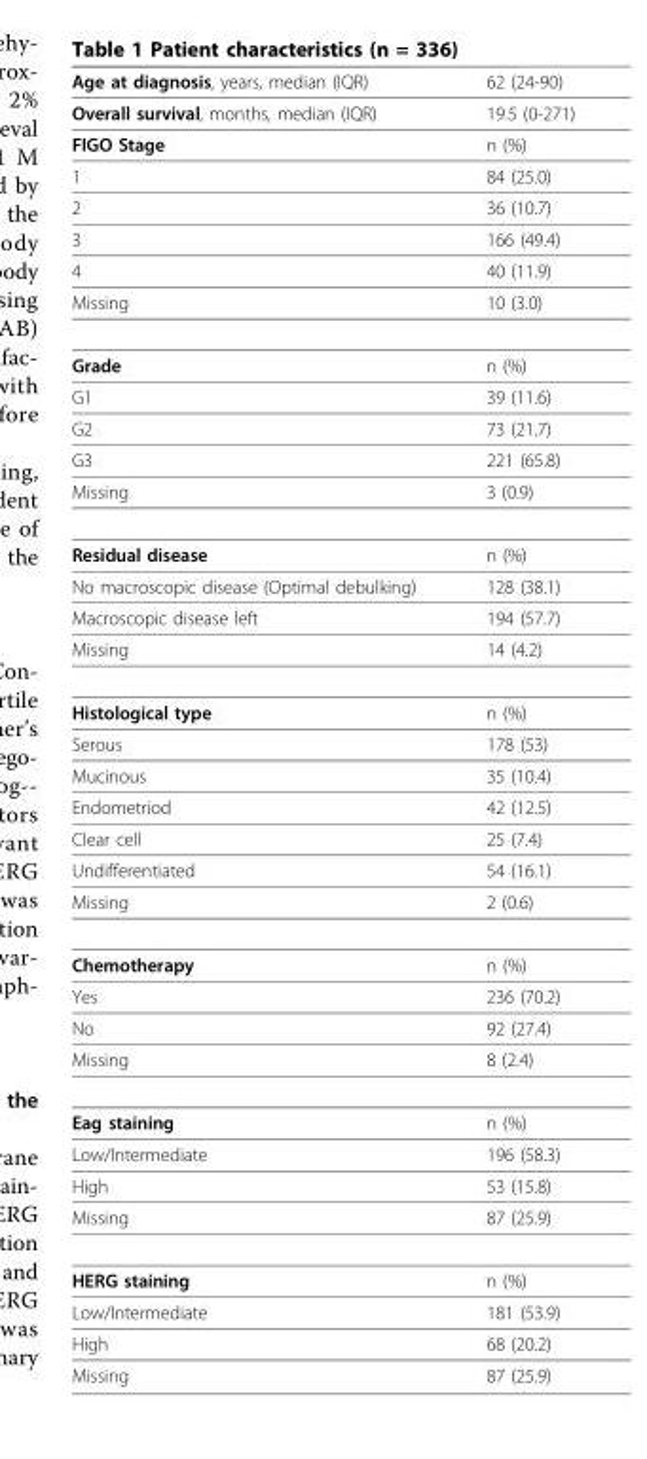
<table><thead><tr><td>Age at diagnosis, years, median (IQR)</td><td>62 (24-90)</td></tr></thead><tbody><tr><td>Overall survival, months, median (IQR)</td><td>19.5 (0-271)</td></tr><tr><td>FIGO Stage</td><td>n (%)</td></tr><tr><td>1</td><td>84 (25.0)</td></tr><tr><td>2</td><td>36 (10.7)</td></tr><tr><td>3</td><td>166 (49.4)</td></tr><tr><td>4</td><td>40 (11.9)</td></tr><tr><td>Missing</td><td>10 (3.0)</td></tr><tr><td>Grade</td><td>n (%)</td></tr><tr><td>G1</td><td>39 (11.6)</td></tr><tr><td>G2</td><td>73 (21.7)</td></tr><tr><td>G3</td><td>221 (65.8)</td></tr><tr><td>Missing</td><td>3 (0.9)</td></tr><tr><td>Residual disease</td><td>n (%)</td></tr><tr><td>No macroscopic disease (Optimal debulking)</td><td>128 (38.1)</td></tr><tr><td>Macroscopic disease left</td><td>194 (57.7)</td></tr><tr><td>Missing</td><td>14 (4.2)</td></tr><tr><td>Histological type</td><td>n (%)</td></tr><tr><td>Serous</td><td>178 (53)</td></tr><tr><td>Mucinous</td><td>35 (10.4)</td></tr><tr><td>Endometriod</td><td>42 (12.5)</td></tr><tr><td>Clear cell</td><td>25 (7.4)</td></tr><tr><td>Undifferentiated</td><td>54 (16.1)</td></tr><tr><td>Missing</td><td>2 (0.6)</td></tr><tr><td>Chemotherapy</td><td>n (%)</td></tr><tr><td>Yes</td><td>236 (70.2)</td></tr><tr><td>No</td><td>92 (27.4)</td></tr><tr><td>Missing</td><td>8 (2.4)</td></tr><tr><td>Eag staining</td><td>n (%)</td></tr><tr><td>Low/Intermediate</td><td>196 (58.3)</td></tr><tr><td>High</td><td>53 (15.8)</td></tr><tr><td>Missing</td><td>87 (25.9)</td></tr><tr><td>HERG staining</td><td>n (%)</td></tr><tr><td>Low/Intermediate</td><td>181 (53.9)</td></tr><tr><td>High</td><td>68 (20.2)</td></tr><tr><td>Missing</td><td>87 (25.9)</td></tr></tbody></table>